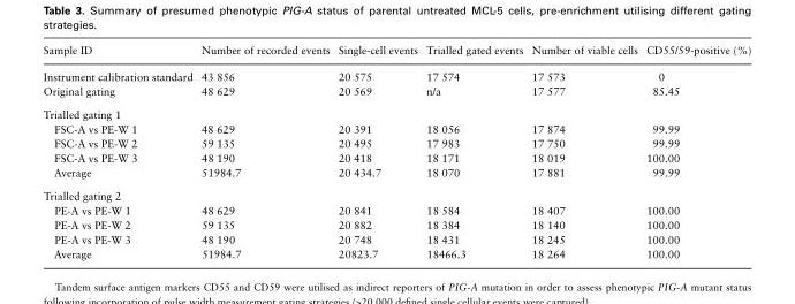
<table><thead><tr><td>Sample ID</td><td>Number of recorded events</td><td>Single-cell events</td><td>Trialled gated events</td><td>Number of viable cells</td><td>CD55/59-positive (%)</td></tr></thead><tbody><tr><td>Instrument calibration standard</td><td>43 856</td><td>20 575</td><td>17 574</td><td>17 573</td><td>0</td></tr><tr><td>Original gating</td><td>48 629</td><td>20 569</td><td>n/a</td><td>17 577</td><td>85.45</td></tr><tr><td colspan="6">Trialled gating 1</td></tr><tr><td>FSC-A vs PE-W 1</td><td>48 629</td><td>20 391</td><td>18 056</td><td>17 874</td><td>99.99</td></tr><tr><td>FSC-A vs PE-W 2</td><td>59 135</td><td>20 495</td><td>17 983</td><td>17 750</td><td>99.99</td></tr><tr><td>FSC-A vs PE-W 3</td><td>48 190</td><td>20 418</td><td>18 171</td><td>18 019</td><td>100.00</td></tr><tr><td>Average</td><td>51984.7</td><td>20 434.7</td><td>18 070</td><td>17 881</td><td>99.99</td></tr><tr><td colspan="6">Trialled gating 2</td></tr><tr><td>PE-A vs PE-W 1</td><td>48 629</td><td>20 841</td><td>18 584</td><td>18 407</td><td>100.00</td></tr><tr><td>PE-A vs PE-W 2</td><td>59 135</td><td>20 882</td><td>18 384</td><td>18 140</td><td>100.00</td></tr><tr><td>PE-A vs PE-W 3</td><td>48 190</td><td>20 748</td><td>18 431</td><td>18 245</td><td>100.00</td></tr><tr><td>Average</td><td>51984.7</td><td>20823.7</td><td>18466.3</td><td>18 264</td><td>100.00</td></tr></tbody></table>